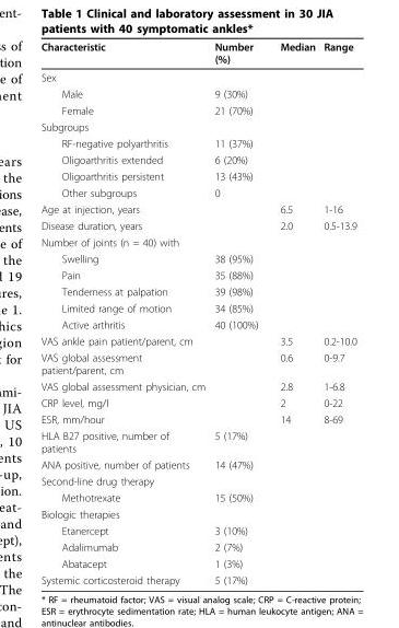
<table><thead><tr><td>Characteristic</td><td>Number (%)</td><td>Median</td><td>Range</td></tr></thead><tbody><tr><td colspan="4">Sex</td></tr><tr><td>Male</td><td>9 (30%)</td><td></td><td></td></tr><tr><td>Female</td><td>21 (70%)</td><td></td><td></td></tr><tr><td colspan="4">Subgroups</td></tr><tr><td>RF-negative polyarthritis</td><td>11 (37%)</td><td></td><td></td></tr><tr><td>Oligoarthritis extended</td><td>6 (20%)</td><td></td><td></td></tr><tr><td>Oligoarthritis persistent</td><td>13 (43%)</td><td></td><td></td></tr><tr><td>Other subgroups</td><td>0</td><td></td><td></td></tr><tr><td>Age at injection, years</td><td></td><td>6.5</td><td>1-16</td></tr><tr><td>Disease duration, years</td><td></td><td>2.0</td><td>0.5-13.9</td></tr><tr><td colspan="4">Number of joints (n = 40) with</td></tr><tr><td>Swelling</td><td>38 (95%)</td><td></td><td></td></tr><tr><td>Pain</td><td>35 (88%)</td><td></td><td></td></tr><tr><td>Tenderness at palpation</td><td>39 (98%)</td><td></td><td></td></tr><tr><td>Limited range of motion</td><td>34 (85%)</td><td></td><td></td></tr><tr><td>Active arthritis</td><td>40 (100%)</td><td></td><td></td></tr><tr><td>VAS ankle pain patient/parent, cm</td><td></td><td>3.5</td><td>0.2-10.0</td></tr><tr><td>VAS global assessment patient/parent, cm</td><td></td><td>0.6</td><td>0-9.7</td></tr><tr><td>VAS global assessment physician, cm</td><td></td><td>2.8</td><td>1-6.8</td></tr><tr><td>CRP level, mg/l</td><td></td><td>2</td><td>0-22</td></tr><tr><td>ESR, mm/hour</td><td></td><td>14</td><td>8-69</td></tr><tr><td>HLA B27 positive, number of patients</td><td>5 (17%)</td><td></td><td></td></tr><tr><td>ANA positive, number of patients</td><td>14 (47%)</td><td></td><td></td></tr><tr><td colspan="4">Second-line drug therapy</td></tr><tr><td>Methotrexate</td><td>15 (50%)</td><td></td><td></td></tr><tr><td colspan="4">Biologic therapies</td></tr><tr><td>Etanercept</td><td>3 (10%)</td><td></td><td></td></tr><tr><td>Adalimumab</td><td>2 (7%)</td><td></td><td></td></tr><tr><td>Abatacept</td><td>1 (3%)</td><td></td><td></td></tr><tr><td>Systemic corticosteroid therapy</td><td>5 (17%)</td><td></td><td></td></tr></tbody></table>